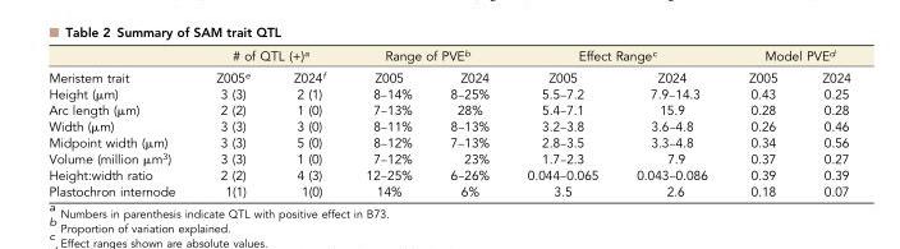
<table><thead><tr><td rowspan="2">Meristem trait</td><td colspan="2"># of QTL (+)<sup>a</sup></td><td colspan="2">Range of PVE<sup>b</sup></td><td colspan="2">Effect Range<sup>c</sup></td><td colspan="2">Model PVE<sup>d</sup></td></tr><tr><td>Z005<sup>e</sup></td><td>Z024<sup>f</sup></td><td>Z005</td><td>Z024</td><td>Z005</td><td>Z024</td><td>Z005</td><td>Z024</td></tr></thead><tbody><tr><td>Height (μm)</td><td>3 (3)</td><td>2 (1)</td><td>8–14%</td><td>8–25%</td><td>5.5–7.2</td><td>7.9–14.3</td><td>0.43</td><td>0.25</td></tr><tr><td>Arc length (μm)</td><td>2 (2)</td><td>1 (0)</td><td>7–13%</td><td>28%</td><td>5.4–7.1</td><td>15.9</td><td>0.28</td><td>0.28</td></tr><tr><td>Width (μm)</td><td>3 (3)</td><td>3 (0)</td><td>8–11%</td><td>8–13%</td><td>3.2–3.8</td><td>3.6–4.8</td><td>0.26</td><td>0.46</td></tr><tr><td>Midpoint width (μm)</td><td>3 (3)</td><td>5 (0)</td><td>8–12%</td><td>7–13%</td><td>2.8–3.5</td><td>3.3–4.8</td><td>0.34</td><td>0.56</td></tr><tr><td>Volume (million μm<sup>3</sup>)</td><td>3 (3)</td><td>1 (0)</td><td>7–12%</td><td>23%</td><td>1.7–2.3</td><td>7.9</td><td>0.37</td><td>0.27</td></tr><tr><td>Height:width ratio</td><td>2 (2)</td><td>4 (3)</td><td>12–25%</td><td>6–26%</td><td>0.044–0.065</td><td>0.043–0.086</td><td>0.39</td><td>0.39</td></tr><tr><td>Plastochron internode</td><td>1(1)</td><td>1(0)</td><td>14%</td><td>6%</td><td>3.5</td><td>2.6</td><td>0.18</td><td>0.07</td></tr></tbody></table>